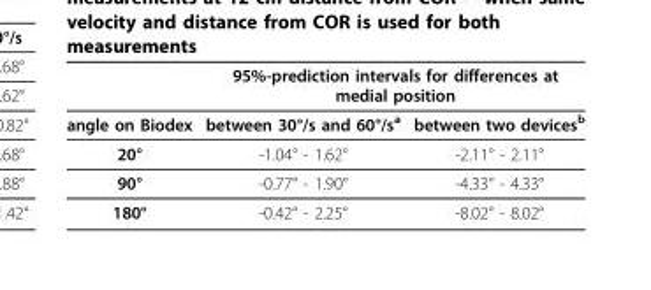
<table><thead><tr><td rowspan="2">angle on Biodex</td><td colspan="2">95%-prediction intervals for differences at medial position</td></tr><tr><td>between 30°/s and 60°/s<sup>a</sup></td><td>between two devices<sup>b</sup></td></tr></thead><tbody><tr><td>20°</td><td>-1.04° - 1.62°</td><td>-2.11° - 2.11°</td></tr><tr><td>90°</td><td>-0.77° - 1.90°</td><td>-4.33° - 4.33°</td></tr><tr><td>180°</td><td>-0.42° - 2.25°</td><td>-8.02° - 8.02°</td></tr></tbody></table>